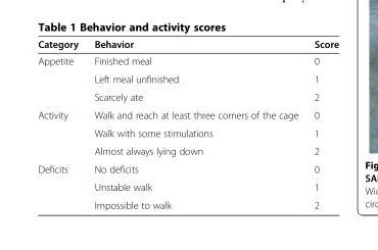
<table><thead><tr><td>Category</td><td>Behavior</td><td>Score</td></tr></thead><tbody><tr><td rowspan="3">Appetite</td><td>Finished meal</td><td>0</td></tr><tr><td>Left meal unfinished</td><td>1</td></tr><tr><td>Scarcely ate</td><td>2</td></tr><tr><td rowspan="3">Activity</td><td>Walk and reach at least three corners of the cage</td><td>0</td></tr><tr><td>Walk with some stimulations</td><td>1</td></tr><tr><td>Almost always lying down</td><td>2</td></tr><tr><td rowspan="3">Deficits</td><td>No deficits</td><td>0</td></tr><tr><td>Unstable walk</td><td>1</td></tr><tr><td>Impossible to walk</td><td>2</td></tr></tbody></table>